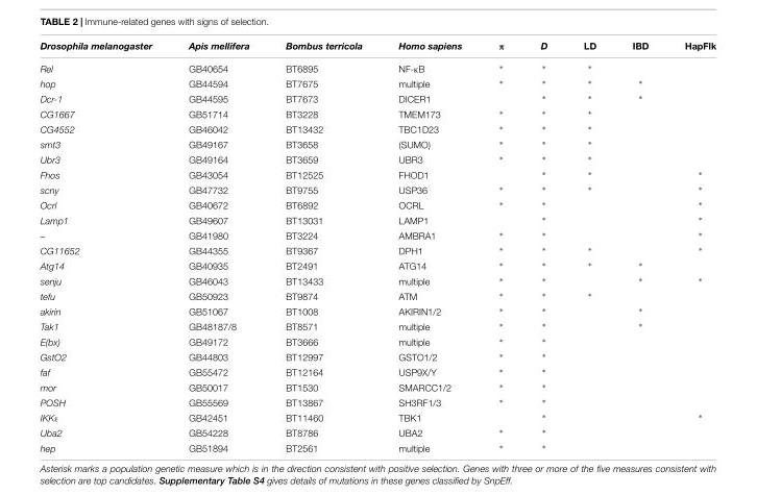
<table><thead><tr><td>Drosophila melanogaster</td><td>Apis mellifera</td><td>Bombus terricola</td><td>Homo sapiens</td><td>π</td><td>D</td><td>LD</td><td>IBD</td><td>HapFlk</td></tr></thead><tbody><tr><td>Rel</td><td>GB40654</td><td>BT6895</td><td>NF-κB</td><td>∗</td><td>∗</td><td>∗</td><td></td><td></td></tr><tr><td>hop</td><td>GB44594</td><td>BT7675</td><td>multiple</td><td>∗</td><td>∗</td><td>∗</td><td>∗</td><td></td></tr><tr><td>Dcr-1</td><td>GB44595</td><td>BT7673</td><td>DICER1</td><td></td><td>∗</td><td>∗</td><td>∗</td><td></td></tr><tr><td>CG1667</td><td>GB51714</td><td>BT3228</td><td>TMEM173</td><td>∗</td><td>∗</td><td>∗</td><td></td><td></td></tr><tr><td>CG4552</td><td>GB46042</td><td>BT13432</td><td>TBC1D23</td><td>∗</td><td>∗</td><td>∗</td><td></td><td></td></tr><tr><td>smt3</td><td>GB49167</td><td>BT3658</td><td>(SUMO)</td><td>∗</td><td>∗</td><td>∗</td><td></td><td></td></tr><tr><td>Ubr3</td><td>GB49164</td><td>BT3659</td><td>UBR3</td><td>∗</td><td>∗</td><td>∗</td><td></td><td></td></tr><tr><td>Fhos</td><td>GB43054</td><td>BT12525</td><td>FHOD1</td><td></td><td>∗</td><td>∗</td><td></td><td>∗</td></tr><tr><td>scny</td><td>GB47732</td><td>BT9755</td><td>USP36</td><td>∗</td><td>∗</td><td>∗</td><td></td><td>∗</td></tr><tr><td>Ocrl</td><td>GB40672</td><td>BT6892</td><td>OCRL</td><td>∗</td><td>∗</td><td></td><td></td><td>∗</td></tr><tr><td>Lamp1</td><td>GB49607</td><td>BT13031</td><td>LAMP1</td><td></td><td>∗</td><td></td><td></td><td>∗</td></tr><tr><td>–</td><td>GB41980</td><td>BT3224</td><td>AMBRA1</td><td>∗</td><td>∗</td><td></td><td></td><td>∗</td></tr><tr><td>CG11652</td><td>GB44355</td><td>BT9367</td><td>DPH1</td><td>∗</td><td>∗</td><td>∗</td><td></td><td>∗</td></tr><tr><td>Atg14</td><td>GB40935</td><td>BT2491</td><td>ATG14</td><td>∗</td><td>∗</td><td>∗</td><td>∗</td><td></td></tr><tr><td>senju</td><td>GB46043</td><td>BT13433</td><td>multiple</td><td>∗</td><td>∗</td><td></td><td>∗</td><td>∗</td></tr><tr><td>tefu</td><td>GB50923</td><td>BT9874</td><td>ATM</td><td>∗</td><td>∗</td><td>∗</td><td></td><td></td></tr><tr><td>akirin</td><td>GB51067</td><td>BT1008</td><td>AKIRIN1/2</td><td>∗</td><td>∗</td><td></td><td>∗</td><td></td></tr><tr><td>Tak1</td><td>GB48187/8</td><td>BT8571</td><td>multiple</td><td>∗</td><td>∗</td><td></td><td>∗</td><td></td></tr><tr><td>E(bx)</td><td>GB49172</td><td>BT3666</td><td>multiple</td><td>∗</td><td>∗</td><td></td><td></td><td></td></tr><tr><td>GstO2</td><td>GB44803</td><td>BT12997</td><td>GSTO1/2</td><td>∗</td><td>∗</td><td></td><td></td><td></td></tr><tr><td>faf</td><td>GB55472</td><td>BT12164</td><td>USP9X/Y</td><td>∗</td><td>∗</td><td></td><td></td><td></td></tr><tr><td>mor</td><td>GB50017</td><td>BT1530</td><td>SMARCC1/2</td><td>∗</td><td>∗</td><td></td><td></td><td></td></tr><tr><td>POSH</td><td>GB55569</td><td>BT13867</td><td>SH3RF1/3</td><td>∗</td><td>∗</td><td></td><td></td><td></td></tr><tr><td>IKKε</td><td>GB42451</td><td>BT11460</td><td>TBK1</td><td></td><td>∗</td><td></td><td></td><td>∗</td></tr><tr><td>Uba2</td><td>GB54228</td><td>BT8786</td><td>UBA2</td><td>∗</td><td>∗</td><td></td><td></td><td></td></tr><tr><td>hep</td><td>GB51894</td><td>BT2561</td><td>multiple</td><td>∗</td><td>∗</td><td></td><td></td><td></td></tr></tbody></table>